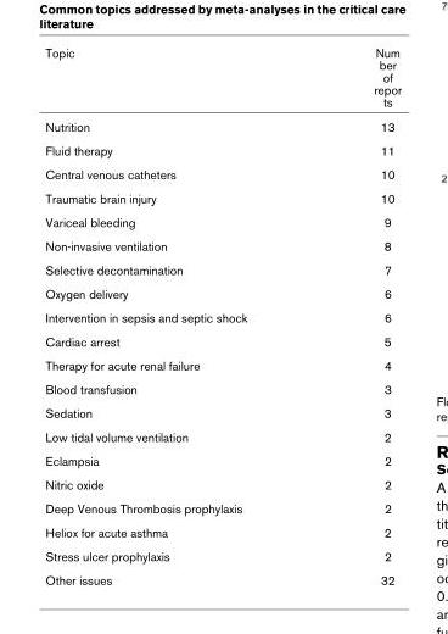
<table><thead><tr><td>Topic</td><td>Num ber of repor ts</td></tr></thead><tbody><tr><td>Nutrition</td><td>13</td></tr><tr><td>Fluid therapy</td><td>11</td></tr><tr><td>Central venous catheters</td><td>10</td></tr><tr><td>Traumatic brain injury</td><td>10</td></tr><tr><td>Variceal bleeding</td><td>9</td></tr><tr><td>Non-invasive ventilation</td><td>8</td></tr><tr><td>Selective decontamination</td><td>7</td></tr><tr><td>Oxygen delivery</td><td>6</td></tr><tr><td>Intervention in sepsis and septic shock</td><td>6</td></tr><tr><td>Cardiac arrest</td><td>5</td></tr><tr><td>Therapy for acute renal failure</td><td>4</td></tr><tr><td>Blood transfusion</td><td>3</td></tr><tr><td>Sedation</td><td>3</td></tr><tr><td>Low tidal volume ventilation</td><td>2</td></tr><tr><td>Eclampsia</td><td>2</td></tr><tr><td>Nitric oxide</td><td>2</td></tr><tr><td>Deep Venous Thrombosis prophylaxis</td><td>2</td></tr><tr><td>Heliox for acute asthma</td><td>2</td></tr><tr><td>Stress ulcer prophylaxis</td><td>2</td></tr><tr><td>Other issues</td><td>32</td></tr></tbody></table>